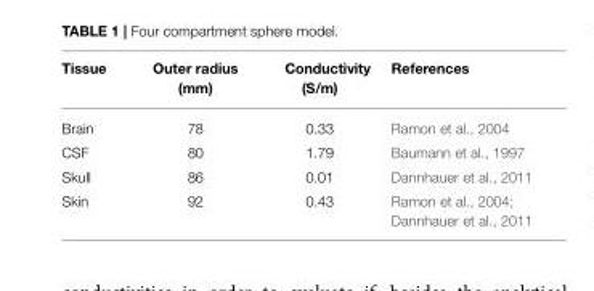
<table><thead><tr><td>Tissue</td><td>Outer radius (mm)</td><td>Conductivity (S/m)</td><td>References</td></tr></thead><tbody><tr><td>Brain</td><td>78</td><td>0.33</td><td>Ramon et al., 2004</td></tr><tr><td>CSF</td><td>80</td><td>1.79</td><td>Baumann et al., 1997</td></tr><tr><td>Skull</td><td>86</td><td>0.01</td><td>Dannhauer et al., 2011</td></tr><tr><td>Skin</td><td>92</td><td>0.43</td><td>Ramon et al., 2004; Dannhauer et al., 2011</td></tr></tbody></table>